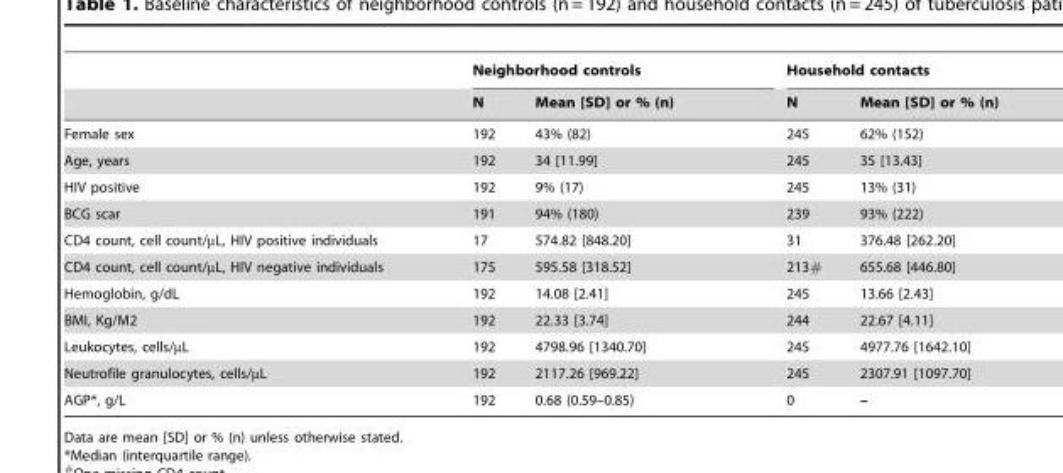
<table><thead><tr><td rowspan="2"></td><td colspan="2">Neighborhood controls</td><td colspan="2">Household contacts</td></tr><tr><td>N</td><td>Mean [SD] or % (n)</td><td>N</td><td>Mean [SD] or % (n)</td></tr></thead><tbody><tr><td>Female sex</td><td>192</td><td>43% (82)</td><td>245</td><td>62% (152)</td></tr><tr><td>Age, years</td><td>192</td><td>34 [11.99]</td><td>245</td><td>35 [13.43]</td></tr><tr><td>HIV positive</td><td>192</td><td>9% (17)</td><td>245</td><td>13% (31)</td></tr><tr><td>BCG scar</td><td>191</td><td>94% (180)</td><td>239</td><td>93% (222)</td></tr><tr><td>CD4 count, cell count/µL, HIV positive individuals</td><td>17</td><td>574.82 [848.20]</td><td>31</td><td>376.48 [262.20]</td></tr><tr><td>CD4 count, cell count/µL, HIV negative individuals</td><td>175</td><td>595.58 [318.52]</td><td>213#</td><td>655.68 [446.80]</td></tr><tr><td>Hemoglobin, g/dL</td><td>192</td><td>14.08 [2.41]</td><td>245</td><td>13.66 [2.43]</td></tr><tr><td>BMI, Kg/M2</td><td>192</td><td>22.33 [3.74]</td><td>244</td><td>22.67 [4.11]</td></tr><tr><td>Leukocytes, cells/µL</td><td>192</td><td>4798.96 [1340.70]</td><td>245</td><td>4977.76 [1642.10]</td></tr><tr><td>Neutrofile granulocytes, cells/µL</td><td>192</td><td>2117.26 [969.22]</td><td>245</td><td>2307.91 [1097.70]</td></tr><tr><td>AGP*, g/L</td><td>192</td><td>0.68 (0.59–0.85)</td><td>0</td><td>–</td></tr></tbody></table>